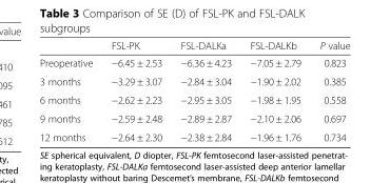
<table><thead><tr><td></td><td>FSL-PK</td><td>FSL-DALKa</td><td>FSL-DALKb</td><td>P value</td></tr></thead><tbody><tr><td>Preoperative</td><td>−6.45 ± 2.53</td><td>−6.36 ± 4.23</td><td>−7.05 ± 2.79</td><td>0.823</td></tr><tr><td>3 months</td><td>−3.29 ± 3.07</td><td>−2.84 ± 3.04</td><td>−1.90 ± 2.02</td><td>0.385</td></tr><tr><td>6 months</td><td>−2.62 ± 2.23</td><td>−2.95 ± 3.05</td><td>−1.98 ± 1.95</td><td>0.558</td></tr><tr><td>9 months</td><td>−2.59 ± 2.48</td><td>−2.89 ± 2.87</td><td>−2.10 ± 2.06</td><td>0.697</td></tr><tr><td>12 months</td><td>−2.64 ± 2.30</td><td>−2.38 ± 2.84</td><td>−1.96 ± 1.76</td><td>0.734</td></tr></tbody></table>